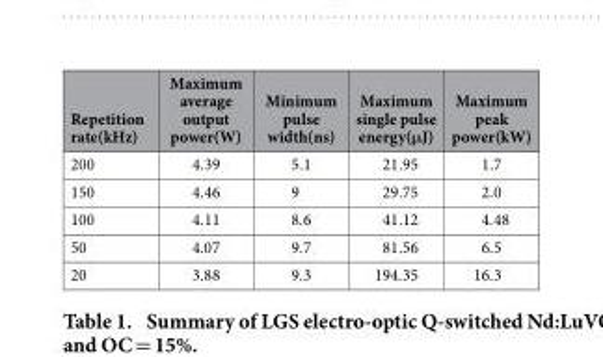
<table><thead><tr><td>Repetition rate(kHz)</td><td>Maximum average output power(W)</td><td>Minimum pulse width(ns)</td><td>Maximum single pulse energy(μJ)</td><td>Maximum peak power(kW)</td></tr></thead><tbody><tr><td>200</td><td>4.39</td><td>5.1</td><td>21.95</td><td>1.7</td></tr><tr><td>150</td><td>4.46</td><td>9</td><td>29.75</td><td>2.0</td></tr><tr><td>100</td><td>4.11</td><td>8.6</td><td>41.12</td><td>4.48</td></tr><tr><td>50</td><td>4.07</td><td>9.7</td><td>81.56</td><td>6.5</td></tr><tr><td>20</td><td>3.88</td><td>9.3</td><td>194.35</td><td>16.3</td></tr></tbody></table>